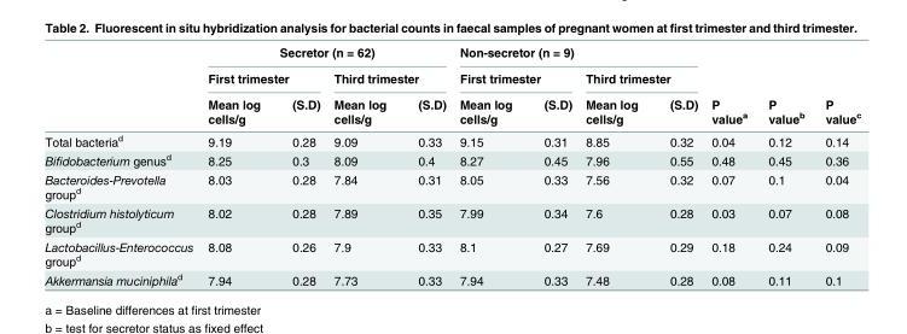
<table><thead><tr><td rowspan="3"></td><td colspan="4">Secretor (n = 62)</td><td colspan="4">Non-secretor (n = 9)</td><td rowspan="3">P value<sup>a</sup></td><td rowspan="3">P value<sup>b</sup></td><td rowspan="3">P value<sup>c</sup></td></tr><tr><td colspan="2">First trimester</td><td colspan="2">Third trimester</td><td colspan="2">First trimester</td><td colspan="2">Third trimester</td></tr><tr><td>Mean log cells/g</td><td>(S.D)</td><td>Mean log cells/g</td><td>(S.D)</td><td>Mean log cells/g</td><td>(S.D)</td><td>Mean log cells/g</td><td>(S.D)</td></tr></thead><tbody><tr><td>Total bacteria<sup>d</sup></td><td>9.19</td><td>0.28</td><td>9.09</td><td>0.33</td><td>9.15</td><td>0.31</td><td>8.85</td><td>0.32</td><td>0.04</td><td>0.12</td><td>0.14</td></tr><tr><td>Bifidobacterium genus<sup>d</sup></td><td>8.25</td><td>0.3</td><td>8.09</td><td>0.4</td><td>8.27</td><td>0.45</td><td>7.96</td><td>0.55</td><td>0.48</td><td>0.45</td><td>0.36</td></tr><tr><td>Bacteroides-Prevotella group<sup>d</sup></td><td>8.03</td><td>0.28</td><td>7.84</td><td>0.31</td><td>8.05</td><td>0.33</td><td>7.56</td><td>0.32</td><td>0.07</td><td>0.1</td><td>0.04</td></tr><tr><td>Clostridium histolyticum group<sup>d</sup></td><td>8.02</td><td>0.28</td><td>7.89</td><td>0.35</td><td>7.99</td><td>0.34</td><td>7.6</td><td>0.28</td><td>0.03</td><td>0.07</td><td>0.08</td></tr><tr><td>Lactobacillus-Enterococcus group<sup>d</sup></td><td>8.08</td><td>0.26</td><td>7.9</td><td>0.33</td><td>8.1</td><td>0.27</td><td>7.69</td><td>0.29</td><td>0.18</td><td>0.24</td><td>0.09</td></tr><tr><td>Akkermansia muciniphila<sup>d</sup></td><td>7.94</td><td>0.28</td><td>7.73</td><td>0.33</td><td>7.94</td><td>0.33</td><td>7.48</td><td>0.28</td><td>0.08</td><td>0.11</td><td>0.1</td></tr></tbody></table>